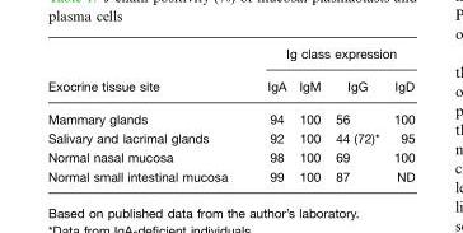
<table><thead><tr><td rowspan="2">Exocrine tissue site</td><td colspan="4">Ig class expression</td></tr><tr><td>IgA</td><td>IgM</td><td>IgG</td><td>IgD</td></tr></thead><tbody><tr><td>Mammary glands</td><td>94</td><td>100</td><td>56</td><td>100</td></tr><tr><td>Salivary and lacrimal glands</td><td>92</td><td>100</td><td>44 (72)*</td><td>95</td></tr><tr><td>Normal nasal mucosa</td><td>98</td><td>100</td><td>69</td><td>100</td></tr><tr><td>Normal small intestinal mucosa</td><td>99</td><td>100</td><td>87</td><td>ND</td></tr></tbody></table>